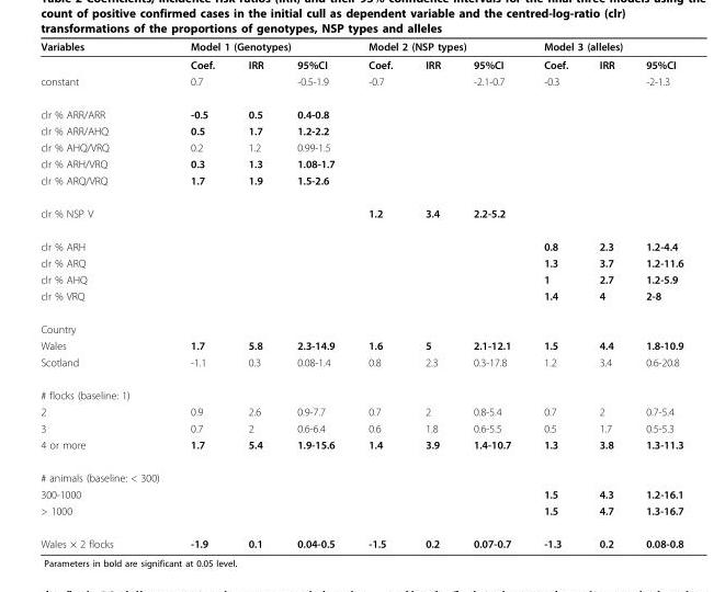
<table><thead><tr><td rowspan="2">Variables</td><td colspan="3">Model 1 (Genotypes)</td><td colspan="3">Model 2 (NSP types)</td><td colspan="3">Model 3 (alleles)</td></tr><tr><td>Coef.</td><td>IRR</td><td>95%CI</td><td>Coef.</td><td>IRR</td><td>95%CI</td><td>Coef.</td><td>IRR</td><td>95%CI</td></tr></thead><tbody><tr><td>constant</td><td>0.7</td><td></td><td>-0.5-1.9</td><td>-0.7</td><td></td><td>-2.1-0.7</td><td>-0.3</td><td></td><td>-2-1.3</td></tr><tr><td>clr % ARR/ARR</td><td>-0.5</td><td>0.5</td><td>0.4-0.8</td><td></td><td></td><td></td><td></td><td></td><td></td></tr><tr><td>clr % ARR/AHQ</td><td>0.5</td><td>1.7</td><td>1.2-2.2</td><td></td><td></td><td></td><td></td><td></td><td></td></tr><tr><td>clr % AHQ/VRQ</td><td>0.2</td><td>1.2</td><td>0.99-1.5</td><td></td><td></td><td></td><td></td><td></td><td></td></tr><tr><td>clr % ARH/VRQ</td><td>0.3</td><td>1.3</td><td>1.08-1.7</td><td></td><td></td><td></td><td></td><td></td><td></td></tr><tr><td>clr % ARQ/VRQ</td><td>1.7</td><td>1.9</td><td>1.5-2.6</td><td></td><td></td><td></td><td></td><td></td><td></td></tr><tr><td>clr % NSP V</td><td></td><td></td><td></td><td>1.2</td><td>3.4</td><td>2.2-5.2</td><td></td><td></td><td></td></tr><tr><td>clr % ARH</td><td></td><td></td><td></td><td></td><td></td><td></td><td>0.8</td><td>2.3</td><td>1.2-4.4</td></tr><tr><td>clr % ARQ</td><td></td><td></td><td></td><td></td><td></td><td></td><td>1.3</td><td>3.7</td><td>1.2-11.6</td></tr><tr><td>clr % AHQ</td><td></td><td></td><td></td><td></td><td></td><td></td><td>1</td><td>2.7</td><td>1.2-5.9</td></tr><tr><td>clr % VRQ</td><td></td><td></td><td></td><td></td><td></td><td></td><td>1.4</td><td>4</td><td>2-8</td></tr><tr><td colspan="10">Country</td></tr><tr><td>Wales</td><td>1.7</td><td>5.8</td><td>2.3-14.9</td><td>1.6</td><td>5</td><td>2.1-12.1</td><td>1.5</td><td>4.4</td><td>1.8-10.9</td></tr><tr><td>Scotland</td><td>-1.1</td><td>0.3</td><td>0.08-1.4</td><td>0.8</td><td>2.3</td><td>0.3-17.8</td><td>1.2</td><td>3.4</td><td>0.6-20.8</td></tr><tr><td colspan="10"># flocks (baseline: 1)</td></tr><tr><td>2</td><td>0.9</td><td>2.6</td><td>0.9-7.7</td><td>0.7</td><td>2</td><td>0.8-5.4</td><td>0.7</td><td>2</td><td>0.7-5.4</td></tr><tr><td>3</td><td>0.7</td><td>2</td><td>0.6-6.4</td><td>0.6</td><td>1.8</td><td>0.6-5.5</td><td>0.5</td><td>1.7</td><td>0.5-5.3</td></tr><tr><td>4 or more</td><td>1.7</td><td>5.4</td><td>1.9-15.6</td><td>1.4</td><td>3.9</td><td>1.4-10.7</td><td>1.3</td><td>3.8</td><td>1.3-11.3</td></tr><tr><td colspan="10"># animals (baseline: &lt; 300)</td></tr><tr><td>300-1000</td><td></td><td></td><td></td><td></td><td></td><td></td><td>1.5</td><td>4.3</td><td>1.2-16.1</td></tr><tr><td>&gt; 1000</td><td></td><td></td><td></td><td></td><td></td><td></td><td>1.5</td><td>4.7</td><td>1.3-16.7</td></tr><tr><td>Wales × 2 flocks</td><td>-1.9</td><td>0.1</td><td>0.04-0.5</td><td>-1.5</td><td>0.2</td><td>0.07-0.7</td><td>-1.3</td><td>0.2</td><td>0.08-0.8</td></tr></tbody></table>